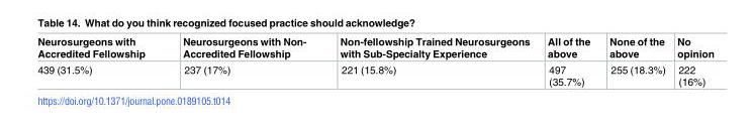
<table><thead><tr><td>Neurosurgeons with Accredited Fellowship</td><td>Neurosurgeons with Non- Accredited Fellowship</td><td>Non-fellowship Trained Neurosurgeons with Sub-Specialty Experience</td><td>All of the above</td><td>None of the above</td><td>No opinion</td></tr></thead><tbody><tr><td>439 (31.5%)</td><td>237 (17%)</td><td>221 (15.8%)</td><td>497 (35.7%)</td><td>255 (18.3%)</td><td>222 (16%)</td></tr></tbody></table>